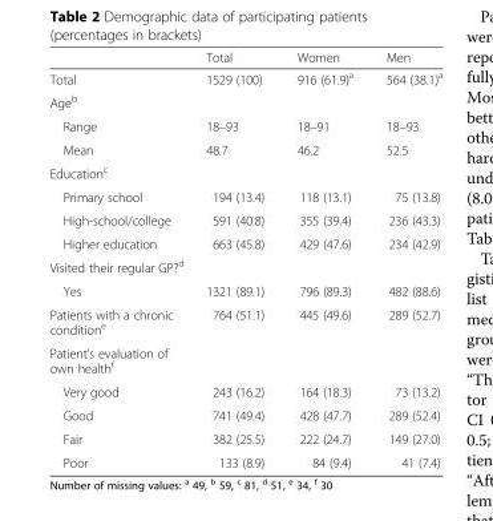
<table><thead><tr><td></td><td>Total</td><td>Women</td><td>Men</td></tr></thead><tbody><tr><td>Total</td><td>1529 (100)</td><td>916 (61.9)<sup>a</sup></td><td>564 (38.1)<sup>a</sup></td></tr><tr><td colspan="4">Age<sup>b</sup></td></tr><tr><td>Range</td><td>18–93</td><td>18–91</td><td>18–93</td></tr><tr><td>Mean</td><td>48.7</td><td>46.2</td><td>52.5</td></tr><tr><td colspan="4">Education<sup>c</sup></td></tr><tr><td>Primary school</td><td>194 (13.4)</td><td>118 (13.1)</td><td>75 (13.8)</td></tr><tr><td>High-school/college</td><td>591 (40.8)</td><td>355 (39.4)</td><td>236 (43.3)</td></tr><tr><td>Higher education</td><td>663 (45.8)</td><td>429 (47.6)</td><td>234 (42.9)</td></tr><tr><td colspan="4">Visited their regular GP?<sup>d</sup></td></tr><tr><td>Yes</td><td>1321 (89.1)</td><td>796 (89.3)</td><td>482 (88.6)</td></tr><tr><td>Patients with a chronic condition<sup>e</sup></td><td>764 (51.1)</td><td>445 (49.6)</td><td>289 (52.7)</td></tr><tr><td colspan="4">Patient’s evaluation of own health<sup>f</sup></td></tr><tr><td>Very good</td><td>243 (16.2)</td><td>164 (18.3)</td><td>73 (13.2)</td></tr><tr><td>Good</td><td>741 (49.4)</td><td>428 (47.7)</td><td>289 (52.4)</td></tr><tr><td>Fair</td><td>382 (25.5)</td><td>222 (24.7)</td><td>149 (27.0)</td></tr><tr><td>Poor</td><td>133 (8.9)</td><td>84 (9.4)</td><td>41 (7.4)</td></tr></tbody></table>